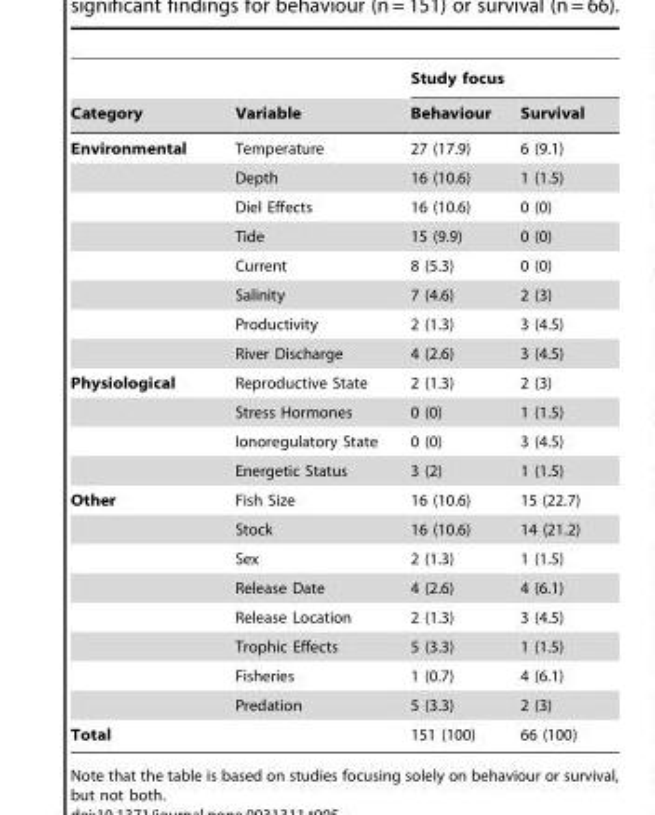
<table><thead><tr><td rowspan="2">Category</td><td rowspan="2">Variable</td><td colspan="2">Study focus</td></tr><tr><td>Behaviour</td><td>Survival</td></tr></thead><tbody><tr><td rowspan="8">Environmental</td><td>Temperature</td><td>27 (17.9)</td><td>6 (9.1)</td></tr><tr><td>Depth</td><td>16 (10.6)</td><td>1 (1.5)</td></tr><tr><td>Diel Effects</td><td>16 (10.6)</td><td>0 (0)</td></tr><tr><td>Tide</td><td>15 (9.9)</td><td>0 (0)</td></tr><tr><td>Current</td><td>8 (5.3)</td><td>0 (0)</td></tr><tr><td>Salinity</td><td>7 (4.6)</td><td>2 (3)</td></tr><tr><td>Productivity</td><td>2 (1.3)</td><td>3 (4.5)</td></tr><tr><td>River Discharge</td><td>4 (2.6)</td><td>3 (4.5)</td></tr><tr><td rowspan="4">Physiological</td><td>Reproductive State</td><td>2 (1.3)</td><td>2 (3)</td></tr><tr><td>Stress Hormones</td><td>0 (0)</td><td>1 (1.5)</td></tr><tr><td>Ionoregulatory State</td><td>0 (0)</td><td>3 (4.5)</td></tr><tr><td>Energetic Status</td><td>3 (2)</td><td>1 (1.5)</td></tr><tr><td rowspan="8">Other</td><td>Fish Size</td><td>16 (10.6)</td><td>15 (22.7)</td></tr><tr><td>Stock</td><td>16 (10.6)</td><td>14 (21.2)</td></tr><tr><td>Sex</td><td>2 (1.3)</td><td>1 (1.5)</td></tr><tr><td>Release Date</td><td>4 (2.6)</td><td>4 (6.1)</td></tr><tr><td>Release Location</td><td>2 (1.3)</td><td>3 (4.5)</td></tr><tr><td>Trophic Effects</td><td>5 (3.3)</td><td>1 (1.5)</td></tr><tr><td>Fisheries</td><td>1 (0.7)</td><td>4 (6.1)</td></tr><tr><td>Predation</td><td>5 (3.3)</td><td>2 (3)</td></tr><tr><td>Total</td><td></td><td>151 (100)</td><td>66 (100)</td></tr></tbody></table>